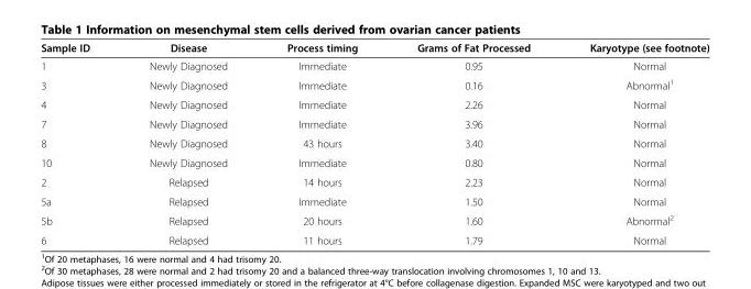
<table><thead><tr><td>Sample ID</td><td>Disease</td><td>Process timing</td><td>Grams of Fat Processed</td><td>Karyotype (see footnote)</td></tr></thead><tbody><tr><td>1</td><td>Newly Diagnosed</td><td>Immediate</td><td>0.95</td><td>Normal</td></tr><tr><td>3</td><td>Newly Diagnosed</td><td>Immediate</td><td>0.16</td><td>Abnormal<sup>1</sup></td></tr><tr><td>4</td><td>Newly Diagnosed</td><td>Immediate</td><td>2.26</td><td>Normal</td></tr><tr><td>7</td><td>Newly Diagnosed</td><td>Immediate</td><td>3.96</td><td>Normal</td></tr><tr><td>8</td><td>Newly Diagnosed</td><td>43 hours</td><td>3.40</td><td>Normal</td></tr><tr><td>10</td><td>Newly Diagnosed</td><td>Immediate</td><td>0.80</td><td>Normal</td></tr><tr><td>2</td><td>Relapsed</td><td>14 hours</td><td>2.23</td><td>Normal</td></tr><tr><td>5a</td><td>Relapsed</td><td>Immediate</td><td>1.50</td><td>Normal</td></tr><tr><td>5b</td><td>Relapsed</td><td>20 hours</td><td>1.60</td><td>Abnormal<sup>2</sup></td></tr><tr><td>6</td><td>Relapsed</td><td>11 hours</td><td>1.79</td><td>Normal</td></tr></tbody></table>